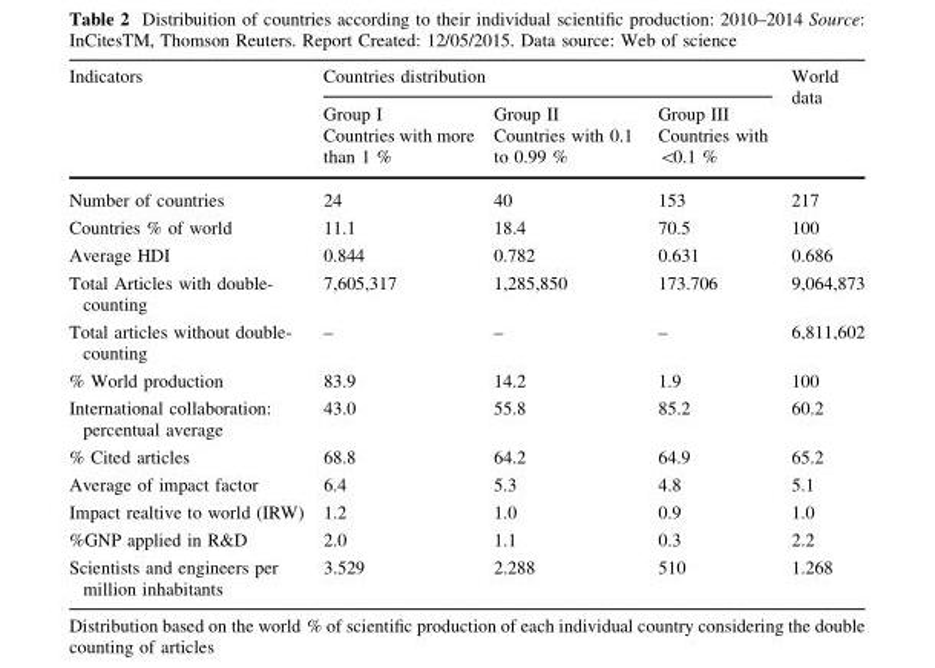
<table><thead><tr><td rowspan="3">Indicators</td><td colspan="3">Countries distribution</td><td rowspan="3">World data</td></tr><tr><td rowspan="2">Group I Countries with more than 1 %</td><td rowspan="2">Group II Countries with 0.1 to 0.99 %</td><td rowspan="2">Group III Countries with &lt;0.1 %</td></tr><tr></tr></thead><tbody><tr><td>Number of countries</td><td>24</td><td>40</td><td>153</td><td>217</td></tr><tr><td>Countries % of world</td><td>11.1</td><td>18.4</td><td>70.5</td><td>100</td></tr><tr><td>Average HDI</td><td>0.844</td><td>0.782</td><td>0.631</td><td>0.686</td></tr><tr><td>Total Articles with double- counting</td><td>7,605,317</td><td>1,285,850</td><td>173.706</td><td>9,064,873</td></tr><tr><td>Total articles without double- counting</td><td>–</td><td>–</td><td>–</td><td>6,811,602</td></tr><tr><td>% World production</td><td>83.9</td><td>14.2</td><td>1.9</td><td>100</td></tr><tr><td>International collaboration: percentual average</td><td>43.0</td><td>55.8</td><td>85.2</td><td>60.2</td></tr><tr><td>% Cited articles</td><td>68.8</td><td>64.2</td><td>64.9</td><td>65.2</td></tr><tr><td>Average of impact factor</td><td>6.4</td><td>5.3</td><td>4.8</td><td>5.1</td></tr><tr><td>Impact realtive to world (IRW)</td><td>1.2</td><td>1.0</td><td>0.9</td><td>1.0</td></tr><tr><td>%GNP applied in R&amp;D</td><td>2.0</td><td>1.1</td><td>0.3</td><td>2.2</td></tr><tr><td>Scientists and engineers per million inhabitants</td><td>3.529</td><td>2.288</td><td>510</td><td>1.268</td></tr></tbody></table>